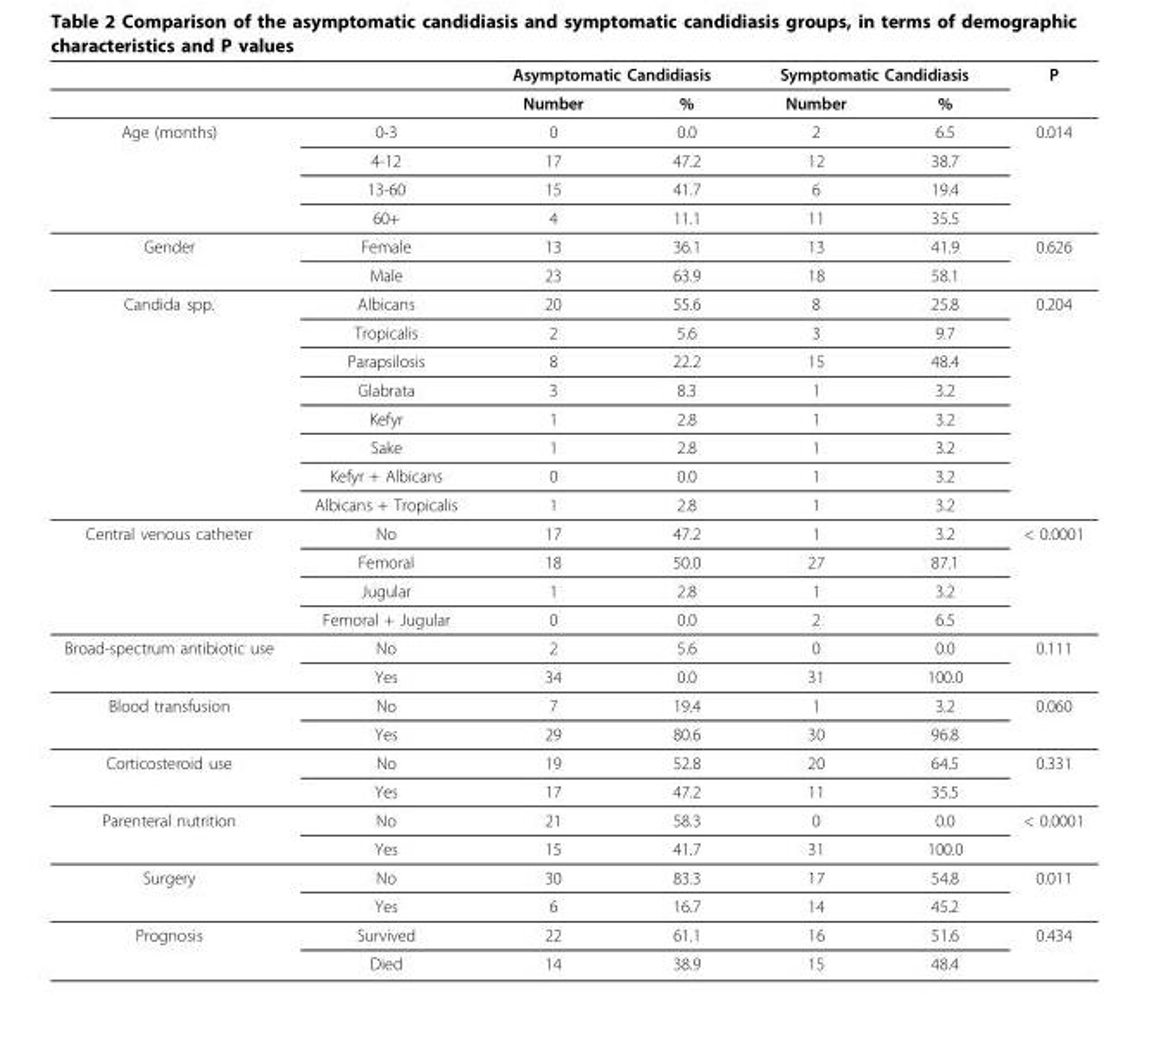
<table><thead><tr><td rowspan="2"></td><td rowspan="2"></td><td colspan="2">Asymptomatic Candidiasis</td><td colspan="2">Symptomatic Candidiasis</td><td rowspan="2">P</td></tr><tr><td>Number</td><td>%</td><td>Number</td><td>%</td></tr></thead><tbody><tr><td rowspan="4">Age (months)</td><td>0-3</td><td>0</td><td>0.0</td><td>2</td><td>6.5</td><td>0.014</td></tr><tr><td>4-12</td><td>17</td><td>47.2</td><td>12</td><td>38.7</td><td></td></tr><tr><td>13-60</td><td>15</td><td>41.7</td><td>6</td><td>19.4</td><td></td></tr><tr><td>60+</td><td>4</td><td>11.1</td><td>11</td><td>35.5</td><td></td></tr><tr><td rowspan="2">Gender</td><td>Female</td><td>13</td><td>36.1</td><td>13</td><td>41.9</td><td>0.626</td></tr><tr><td>Male</td><td>23</td><td>63.9</td><td>18</td><td>58.1</td><td></td></tr><tr><td rowspan="8">Candida spp.</td><td>Albicans</td><td>20</td><td>55.6</td><td>8</td><td>25.8</td><td>0.204</td></tr><tr><td>Tropicalis</td><td>2</td><td>5.6</td><td>3</td><td>9.7</td><td></td></tr><tr><td>Parapsilosis</td><td>8</td><td>22.2</td><td>15</td><td>48.4</td><td></td></tr><tr><td>Glabrata</td><td>3</td><td>8.3</td><td>1</td><td>3.2</td><td></td></tr><tr><td>Kefyr</td><td>1</td><td>2.8</td><td>1</td><td>3.2</td><td></td></tr><tr><td>Sake</td><td>1</td><td>2.8</td><td>1</td><td>3.2</td><td></td></tr><tr><td>Kefyr + Albicans</td><td>0</td><td>0.0</td><td>1</td><td>3.2</td><td></td></tr><tr><td>Albicans + Tropicalis</td><td>1</td><td>2.8</td><td>1</td><td>3.2</td><td></td></tr><tr><td rowspan="4">Central venous catheter</td><td>No</td><td>17</td><td>47.2</td><td>1</td><td>3.2</td><td>&lt; 0.0001</td></tr><tr><td>Femoral</td><td>18</td><td>50.0</td><td>27</td><td>87.1</td><td></td></tr><tr><td>Jugular</td><td>1</td><td>2.8</td><td>1</td><td>3.2</td><td></td></tr><tr><td>Femoral + Jugular</td><td>0</td><td>0.0</td><td>2</td><td>6.5</td><td></td></tr><tr><td rowspan="2">Broad-spectrum antibiotic use</td><td>No</td><td>2</td><td>5.6</td><td>0</td><td>0.0</td><td>0.111</td></tr><tr><td>Yes</td><td>34</td><td>0.0</td><td>31</td><td>100.0</td><td></td></tr><tr><td rowspan="2">Blood transfusion</td><td>No</td><td>7</td><td>19.4</td><td>1</td><td>3.2</td><td>0.060</td></tr><tr><td>Yes</td><td>29</td><td>80.6</td><td>30</td><td>96.8</td><td></td></tr><tr><td rowspan="2">Corticosteroid use</td><td>No</td><td>19</td><td>52.8</td><td>20</td><td>64.5</td><td>0.331</td></tr><tr><td>Yes</td><td>17</td><td>47.2</td><td>11</td><td>35.5</td><td></td></tr><tr><td rowspan="2">Parenteral nutrition</td><td>No</td><td>21</td><td>58.3</td><td>0</td><td>0.0</td><td>&lt; 0.0001</td></tr><tr><td>Yes</td><td>15</td><td>41.7</td><td>31</td><td>100.0</td><td></td></tr><tr><td rowspan="2">Surgery</td><td>No</td><td>30</td><td>83.3</td><td>17</td><td>54.8</td><td>0.011</td></tr><tr><td>Yes</td><td>6</td><td>16.7</td><td>14</td><td>45.2</td><td></td></tr><tr><td rowspan="2">Prognosis</td><td>Survived</td><td>22</td><td>61.1</td><td>16</td><td>51.6</td><td>0.434</td></tr><tr><td>Died</td><td>14</td><td>38.9</td><td>15</td><td>48.4</td><td></td></tr></tbody></table>